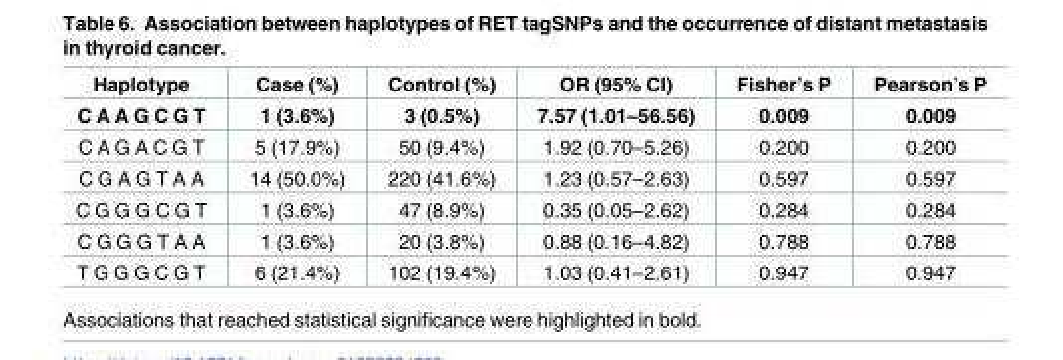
<table><thead><tr><td>Haplotype</td><td>Case (%)</td><td>Control (%)</td><td>OR (95% CI)</td><td>Fisher’s P</td><td>Pearson’s P</td></tr></thead><tbody><tr><td>C A A G C G T</td><td>1 (3.6%)</td><td>3 (0.5%)</td><td>7.57 (1.01–56.56)</td><td>0.009</td><td>0.009</td></tr><tr><td>C A G A C G T</td><td>5 (17.9%)</td><td>50 (9.4%)</td><td>1.92 (0.70–5.26)</td><td>0.200</td><td>0.200</td></tr><tr><td>C G A G T A A</td><td>14 (50.0%)</td><td>220 (41.6%)</td><td>1.23 (0.57–2.63)</td><td>0.597</td><td>0.597</td></tr><tr><td>C G G G C G T</td><td>1 (3.6%)</td><td>47 (8.9%)</td><td>0.35 (0.05–2.62)</td><td>0.284</td><td>0.284</td></tr><tr><td>C G G G T A A</td><td>1 (3.6%)</td><td>20 (3.8%)</td><td>0.88 (0.16–4.82)</td><td>0.788</td><td>0.788</td></tr><tr><td>T G G G C G T</td><td>6 (21.4%)</td><td>102 (19.4%)</td><td>1.03 (0.41–2.61)</td><td>0.947</td><td>0.947</td></tr></tbody></table>